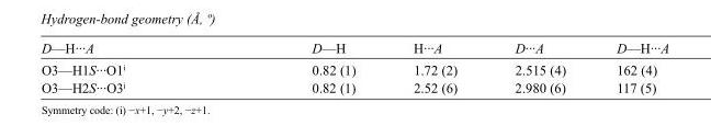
<table><tbody><tr><td>D—H···A</td><td>D—H</td><td>H···A</td><td>D···A</td><td>D—H···A</td></tr><tr><td>O3—H1S···O1<sup>i</sup></td><td>0.82 (1)</td><td>1.72 (2)</td><td>2.515 (4)</td><td>162 (4)</td></tr><tr><td>O3—H2S···O3<sup>i</sup></td><td>0.82 (1)</td><td>2.52 (6)</td><td>2.980 (6)</td><td>117 (5)</td></tr></tbody></table>